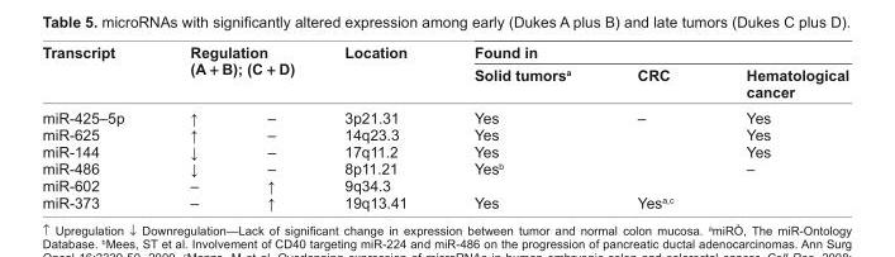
<table><thead><tr><td rowspan="3">Transcript mir-425–5p</td><td rowspan="2" colspan="2">Regulation (A + B); (c + D)</td><td rowspan="3">Location 3p21.31</td><td colspan="3">Found in</td></tr><tr><td rowspan="2">solid tumors<sup>a</sup> Yes</td><td rowspan="2">cRc –</td><td rowspan="2">Hematological cancer Yes</td></tr><tr><td>↑</td><td>–</td></tr></thead><tbody><tr><td>mir-625</td><td>↑</td><td>–</td><td>14q23.3</td><td>Yes</td><td></td><td>Yes</td></tr><tr><td>mir-144</td><td>↓</td><td>–</td><td>17q11.2</td><td>Yes</td><td></td><td>Yes</td></tr><tr><td>mir-486</td><td>↓</td><td>–</td><td>8p11.21</td><td>Yes<sup>b</sup></td><td></td><td>–</td></tr><tr><td>mir-602</td><td>–</td><td>↑</td><td>9q34.3</td><td></td><td></td><td></td></tr><tr><td>mir-373</td><td>–</td><td>↑</td><td>19q13.41</td><td>Yes</td><td>Yes<sup>a</sup>,<sup>c</sup></td><td></td></tr></tbody></table>